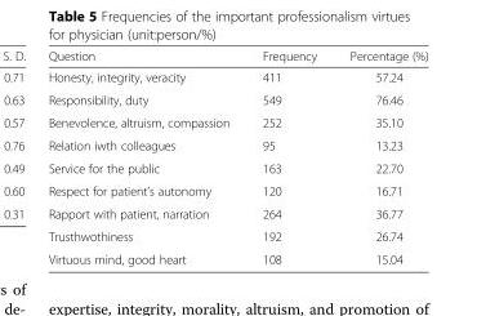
<table><thead><tr><td>Question</td><td>Frequency</td><td>Percentage (%)</td></tr></thead><tbody><tr><td>Honesty, integrity, veracity</td><td>411</td><td>57.24</td></tr><tr><td>Responsibility, duty</td><td>549</td><td>76.46</td></tr><tr><td>Benevolence, altruism, compassion</td><td>252</td><td>35.10</td></tr><tr><td>Relation iwth colleagues</td><td>95</td><td>13.23</td></tr><tr><td>Service for the public</td><td>163</td><td>22.70</td></tr><tr><td>Respect for patient’s autonomy</td><td>120</td><td>16.71</td></tr><tr><td>Rapport with patient, narration</td><td>264</td><td>36.77</td></tr><tr><td>Trusthwothiness</td><td>192</td><td>26.74</td></tr><tr><td>Virtuous mind, good heart</td><td>108</td><td>15.04</td></tr></tbody></table>